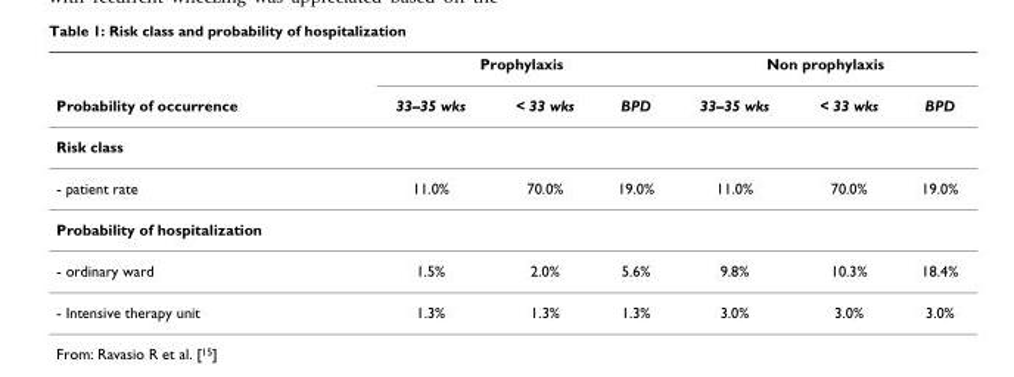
<table><thead><tr><td rowspan="2">Probability of occurrence</td><td colspan="3">Prophylaxis</td><td colspan="3">Non prophylaxis</td></tr><tr><td>33–35 wks</td><td>&lt; 33 wks</td><td>BPD</td><td>33–35 wks</td><td>&lt; 33 wks</td><td>BPD</td></tr></thead><tbody><tr><td colspan="7">Risk class</td></tr><tr><td>- patient rate</td><td>11.0%</td><td>70.0%</td><td>19.0%</td><td>11.0%</td><td>70.0%</td><td>19.0%</td></tr><tr><td colspan="7">Probability of hospitalization</td></tr><tr><td>- ordinary ward</td><td>1.5%</td><td>2.0%</td><td>5.6%</td><td>9.8%</td><td>10.3%</td><td>18.4%</td></tr><tr><td>- Intensive therapy unit</td><td>1.3%</td><td>1.3%</td><td>1.3%</td><td>3.0%</td><td>3.0%</td><td>3.0%</td></tr></tbody></table>